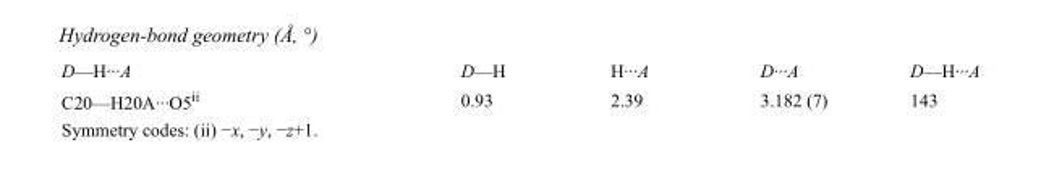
<table><tbody><tr><td>D—H···A</td><td>D—H</td><td>H···A</td><td>D···A</td><td>D—H···A</td></tr><tr><td>C20—H20A···O5<sup>ii</sup></td><td>0.93</td><td>2.39</td><td>3.182 (7)</td><td>143</td></tr></tbody></table>